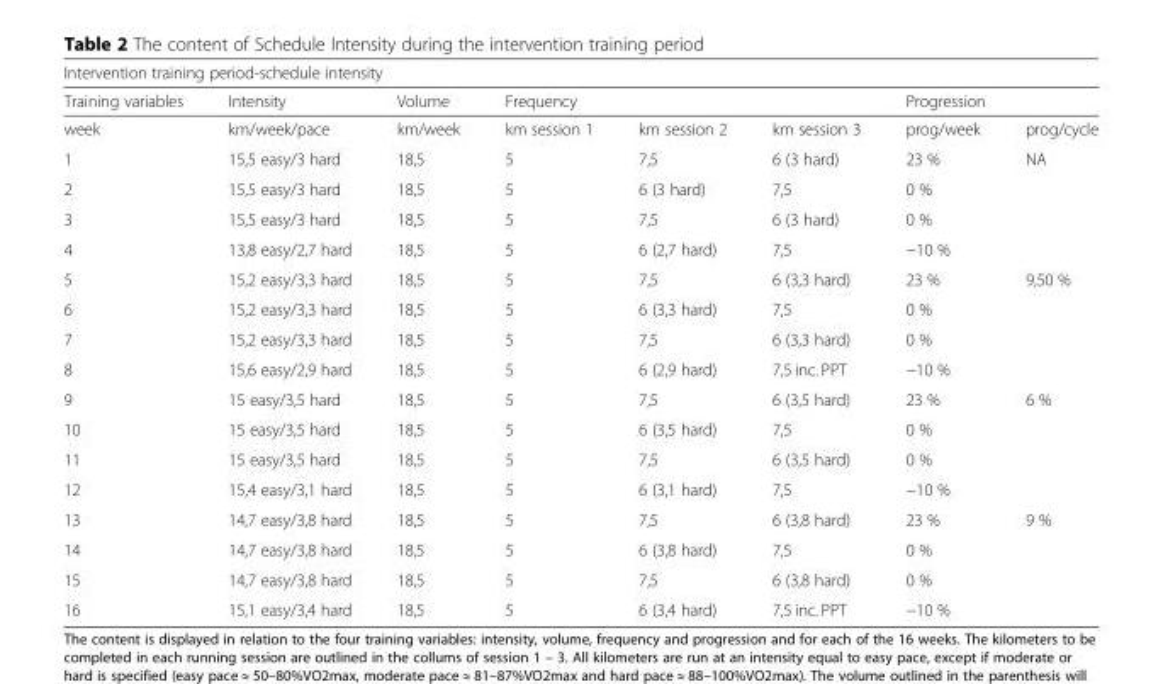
<table><thead><tr><td colspan="8">Intervention training period-schedule intensity</td></tr><tr><td rowspan="2">Training variables week</td><td rowspan="2">Intensity km/week/pace</td><td rowspan="2">Volume km/week</td><td colspan="3">Frequency</td><td colspan="2">Progression</td></tr><tr><td>km session 1</td><td>km session 2</td><td>km session 3</td><td>prog/week</td><td>prog/cycle</td></tr></thead><tbody><tr><td>1</td><td>15,5 easy/3 hard</td><td>18,5</td><td>5</td><td>7,5</td><td>6 (3 hard)</td><td>23 %</td><td rowspan="4">NA</td></tr><tr><td>2</td><td>15,5 easy/3 hard</td><td>18,5</td><td>5</td><td>6 (3 hard)</td><td>7,5</td><td>0 %</td></tr><tr><td>3</td><td>15,5 easy/3 hard</td><td>18,5</td><td>5</td><td>7,5</td><td>6 (3 hard)</td><td>0 %</td></tr><tr><td>4</td><td>13,8 easy/2,7 hard</td><td>18,5</td><td>5</td><td>6 (2,7 hard)</td><td>7,5</td><td>−10 %</td></tr><tr><td>5</td><td>15,2 easy/3,3 hard</td><td>18,5</td><td>5</td><td>7,5</td><td>6 (3,3 hard)</td><td>23 %</td><td rowspan="4">9,50 %</td></tr><tr><td>6</td><td>15,2 easy/3,3 hard</td><td>18,5</td><td>5</td><td>6 (3,3 hard)</td><td>7,5</td><td>0 %</td></tr><tr><td>7</td><td>15,2 easy/3,3 hard</td><td>18,5</td><td>5</td><td>7,5</td><td>6 (3,3 hard)</td><td>0 %</td></tr><tr><td>8</td><td>15,6 easy/2,9 hard</td><td>18,5</td><td>5</td><td>6 (2,9 hard)</td><td>7,5 inc. PPT</td><td>−10 %</td></tr><tr><td>9</td><td>15 easy/3,5 hard</td><td>18,5</td><td>5</td><td>7,5</td><td>6 (3,5 hard)</td><td>23 %</td><td rowspan="4">6 %</td></tr><tr><td>10</td><td>15 easy/3,5 hard</td><td>18,5</td><td>5</td><td>6 (3,5 hard)</td><td>7,5</td><td>0 %</td></tr><tr><td>11</td><td>15 easy/3,5 hard</td><td>18,5</td><td>5</td><td>7,5</td><td>6 (3,5 hard)</td><td>0 %</td></tr><tr><td>12</td><td>15,4 easy/3,1 hard</td><td>18,5</td><td>5</td><td>6 (3,1 hard)</td><td>7,5</td><td>−10 %</td></tr><tr><td>13</td><td>14,7 easy/3,8 hard</td><td>18,5</td><td>5</td><td>7,5</td><td>6 (3,8 hard)</td><td>23 %</td><td rowspan="4">9 %</td></tr><tr><td>14</td><td>14,7 easy/3,8 hard</td><td>18,5</td><td>5</td><td>6 (3,8 hard)</td><td>7,5</td><td>0 %</td></tr><tr><td>15</td><td>14,7 easy/3,8 hard</td><td>18,5</td><td>5</td><td>7,5</td><td>6 (3,8 hard)</td><td>0 %</td></tr><tr><td>16</td><td>15,1 easy/3,4 hard</td><td>18,5</td><td>5</td><td>6 (3,4 hard)</td><td>7,5 inc. PPT</td><td>−10 %</td></tr></tbody></table>